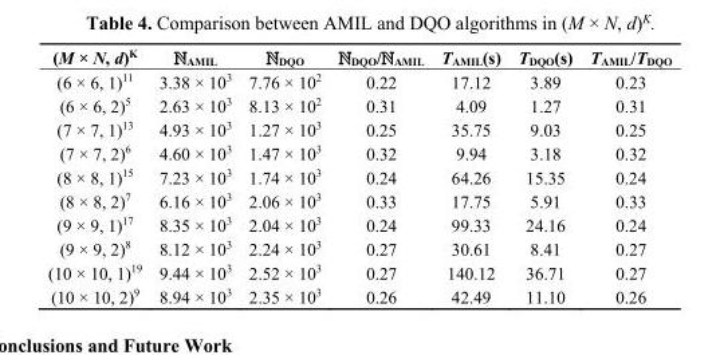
<table><thead><tr><td>(M × N, d)<sup>K</sup></td><td>AMIL</td><td>DQO</td><td>DQO/ AMIL</td><td>T<sub>AMIL</sub>(s)</td><td>T<sub>DQO</sub>(s)</td><td>T<sub>AMIL</sub>/T<sub>DQO</sub></td></tr></thead><tbody><tr><td>(6 × 6, 1)<sup>11</sup></td><td>3.38 × 10<sup>3</sup></td><td>7.76 × 10<sup>2</sup></td><td>0.22</td><td>17.12</td><td>3.89</td><td>0.23</td></tr><tr><td>(6 × 6, 2)<sup>5</sup></td><td>2.63 × 10<sup>3</sup></td><td>8.13 × 10<sup>2</sup></td><td>0.31</td><td>4.09</td><td>1.27</td><td>0.31</td></tr><tr><td>(7 × 7, 1)<sup>13</sup></td><td>4.93 × 10<sup>3</sup></td><td>1.27 × 10<sup>3</sup></td><td>0.25</td><td>35.75</td><td>9.03</td><td>0.25</td></tr><tr><td>(7 × 7, 2)<sup>6</sup></td><td>4.60 × 10<sup>3</sup></td><td>1.47 × 10<sup>3</sup></td><td>0.32</td><td>9.94</td><td>3.18</td><td>0.32</td></tr><tr><td>(8 × 8, 1)<sup>15</sup></td><td>7.23 × 10<sup>3</sup></td><td>1.74 × 10<sup>3</sup></td><td>0.24</td><td>64.26</td><td>15.35</td><td>0.24</td></tr><tr><td>(8 × 8, 2)<sup>7</sup></td><td>6.16 × 10<sup>3</sup></td><td>2.06 × 10<sup>3</sup></td><td>0.33</td><td>17.75</td><td>5.91</td><td>0.33</td></tr><tr><td>(9 × 9, 1)<sup>17</sup></td><td>8.35 × 10<sup>3</sup></td><td>2.04 × 10<sup>3</sup></td><td>0.24</td><td>99.33</td><td>24.16</td><td>0.24</td></tr><tr><td>(9 × 9, 2)<sup>8</sup></td><td>8.12 × 10<sup>3</sup></td><td>2.24 × 10<sup>3</sup></td><td>0.27</td><td>30.61</td><td>8.41</td><td>0.27</td></tr><tr><td>(10 × 10, 1)<sup>19</sup></td><td>9.44 × 10<sup>3</sup></td><td>2.52 × 10<sup>3</sup></td><td>0.27</td><td>140.12</td><td>36.71</td><td>0.27</td></tr><tr><td>(10 × 10, 2)<sup>9</sup></td><td>8.94 × 10<sup>3</sup></td><td>2.35 × 10<sup>3</sup></td><td>0.26</td><td>42.49</td><td>11.10</td><td>0.26</td></tr></tbody></table>